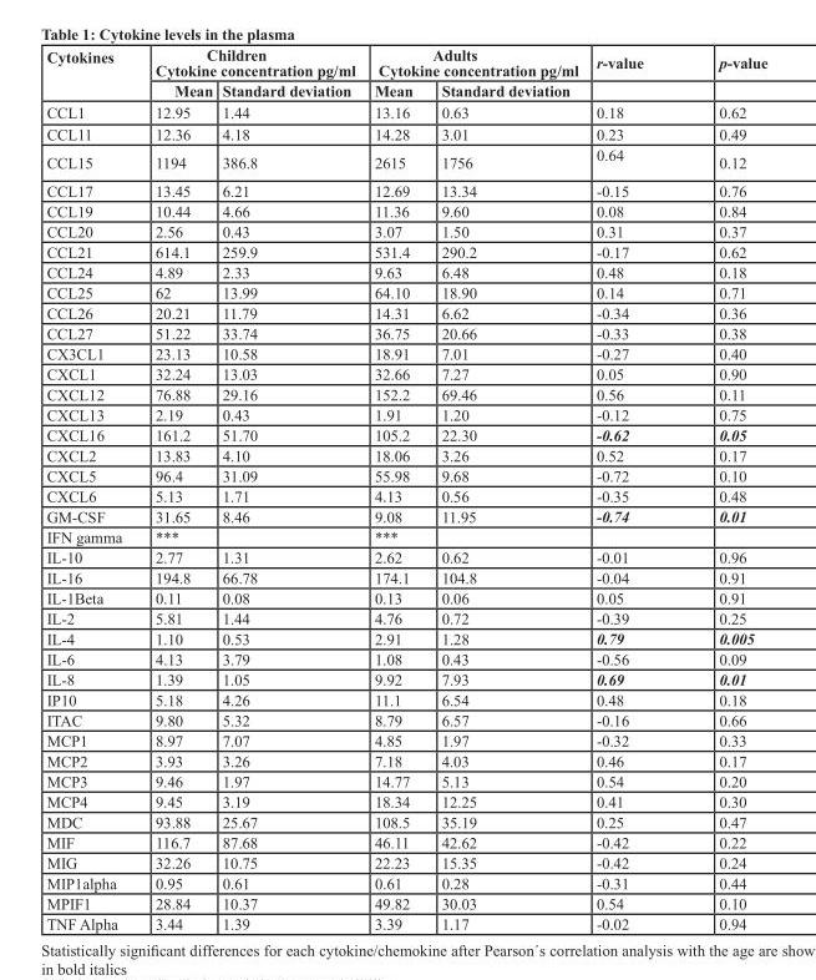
<table><thead><tr><td rowspan="2">Cytokines</td><td colspan="2">Children Cytokine concentration pg/ml</td><td colspan="2">Adults Cytokine concentration pg/ml</td><td rowspan="2">r-value</td><td rowspan="2">p-value</td></tr><tr><td>Mean</td><td>Standard deviation</td><td>Mean</td><td>Standard deviation</td></tr></thead><tbody><tr><td>CCL1</td><td>12.95</td><td>1.44</td><td>13.16</td><td>0.63</td><td>0.18</td><td>0.62</td></tr><tr><td>CCL11</td><td>12.36</td><td>4.18</td><td>14.28</td><td>3.01</td><td>0.23</td><td>0.49</td></tr><tr><td>CCL15</td><td>1194</td><td>386.8</td><td>2615</td><td>1756</td><td>0.64</td><td>0.12</td></tr><tr><td>CCL17</td><td>13.45</td><td>6.21</td><td>12.69</td><td>13.34</td><td>-0.15</td><td>0.76</td></tr><tr><td>CCL19</td><td>10.44</td><td>4.66</td><td>11.36</td><td>9.60</td><td>0.08</td><td>0.84</td></tr><tr><td>CCL20</td><td>2.56</td><td>0.43</td><td>3.07</td><td>1.50</td><td>0.31</td><td>0.37</td></tr><tr><td>CCL21</td><td>614.1</td><td>259.9</td><td>531.4</td><td>290.2</td><td>-0.17</td><td>0.62</td></tr><tr><td>CCL24</td><td>4.89</td><td>2.33</td><td>9.63</td><td>6.48</td><td>0.48</td><td>0.18</td></tr><tr><td>CCL25</td><td>62</td><td>13.99</td><td>64.10</td><td>18.90</td><td>0.14</td><td>0.71</td></tr><tr><td>CCL26</td><td>20.21</td><td>11.79</td><td>14.31</td><td>6.62</td><td>-0.34</td><td>0.36</td></tr><tr><td>CCL27</td><td>51.22</td><td>33.74</td><td>36.75</td><td>20.66</td><td>-0.33</td><td>0.38</td></tr><tr><td>CX3CL1</td><td>23.13</td><td>10.58</td><td>18.91</td><td>7.01</td><td>-0.27</td><td>0.40</td></tr><tr><td>CXCL1</td><td>32.24</td><td>13.03</td><td>32.66</td><td>7.27</td><td>0.05</td><td>0.90</td></tr><tr><td>CXCL12</td><td>76.88</td><td>29.16</td><td>152.2</td><td>69.46</td><td>0.56</td><td>0.11</td></tr><tr><td>CXCL13</td><td>2.19</td><td>0.43</td><td>1.91</td><td>1.20</td><td>-0.12</td><td>0.75</td></tr><tr><td>CXCL16</td><td>161.2</td><td>51.70</td><td>105.2</td><td>22.30</td><td>-0.62</td><td>0.05</td></tr><tr><td>CXCL2</td><td>13.83</td><td>4.10</td><td>18.06</td><td>3.26</td><td>0.52</td><td>0.17</td></tr><tr><td>CXCL5</td><td>96.4</td><td>31.09</td><td>55.98</td><td>9.68</td><td>-0.72</td><td>0.10</td></tr><tr><td>CXCL6</td><td>5.13</td><td>1.71</td><td>4.13</td><td>0.56</td><td>-0.35</td><td>0.48</td></tr><tr><td>GM-CSF</td><td>31.65</td><td>8.46</td><td>9.08</td><td>11.95</td><td>-0.74</td><td>0.01</td></tr><tr><td>IFN gamma</td><td>***</td><td></td><td>***</td><td></td><td></td><td></td></tr><tr><td>IL-10</td><td>2.77</td><td>1.31</td><td>2.62</td><td>0.62</td><td>-0.01</td><td>0.96</td></tr><tr><td>IL-16</td><td>194.8</td><td>66.78</td><td>174.1</td><td>104.8</td><td>-0.04</td><td>0.91</td></tr><tr><td>IL-1Beta</td><td>0.11</td><td>0.08</td><td>0.13</td><td>0.06</td><td>0.05</td><td>0.91</td></tr><tr><td>IL-2</td><td>5.81</td><td>1.44</td><td>4.76</td><td>0.72</td><td>-0.39</td><td>0.25</td></tr><tr><td>IL-4</td><td>1.10</td><td>0.53</td><td>2.91</td><td>1.28</td><td>0.79</td><td>0.005</td></tr><tr><td>IL-6</td><td>4.13</td><td>3.79</td><td>1.08</td><td>0.43</td><td>-0.56</td><td>0.09</td></tr><tr><td>IL-8</td><td>1.39</td><td>1.05</td><td>9.92</td><td>7.93</td><td>0.69</td><td>0.01</td></tr><tr><td>IP10</td><td>5.18</td><td>4.26</td><td>11.1</td><td>6.54</td><td>0.48</td><td>0.18</td></tr><tr><td>ITAC</td><td>9.80</td><td>5.32</td><td>8.79</td><td>6.57</td><td>-0.16</td><td>0.66</td></tr><tr><td>MCP1</td><td>8.97</td><td>7.07</td><td>4.85</td><td>1.97</td><td>-0.32</td><td>0.33</td></tr><tr><td>MCP2</td><td>3.93</td><td>3.26</td><td>7.18</td><td>4.03</td><td>0.46</td><td>0.17</td></tr><tr><td>MCP3</td><td>9.46</td><td>1.97</td><td>14.77</td><td>5.13</td><td>0.54</td><td>0.20</td></tr><tr><td>MCP4</td><td>9.45</td><td>3.19</td><td>18.34</td><td>12.25</td><td>0.41</td><td>0.30</td></tr><tr><td>MDC</td><td>93.88</td><td>25.67</td><td>108.5</td><td>35.19</td><td>0.25</td><td>0.47</td></tr><tr><td>MIF</td><td>116.7</td><td>87.68</td><td>46.11</td><td>42.62</td><td>-0.42</td><td>0.22</td></tr><tr><td>MIG</td><td>32.26</td><td>10.75</td><td>22.23</td><td>15.35</td><td>-0.42</td><td>0.24</td></tr><tr><td>MIP1alpha</td><td>0.95</td><td>0.61</td><td>0.61</td><td>0.28</td><td>-0.31</td><td>0.44</td></tr><tr><td>MPIF1</td><td>28.84</td><td>10.37</td><td>49.82</td><td>30.03</td><td>0.54</td><td>0.10</td></tr><tr><td>TNF Alpha</td><td>3.44</td><td>1.39</td><td>3.39</td><td>1.17</td><td>-0.02</td><td>0.94</td></tr></tbody></table>